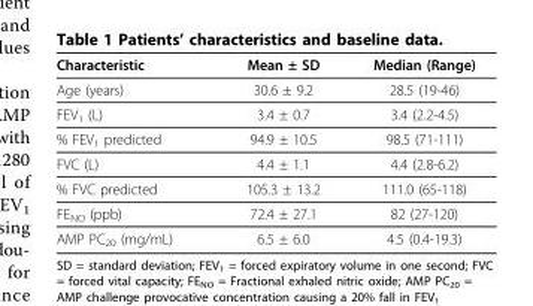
<table><thead><tr><td>Characteristic</td><td>Mean ± SD</td><td>Median (Range)</td></tr></thead><tbody><tr><td>Age (years)</td><td>30.6 ± 9.2</td><td>28.5 (19-46)</td></tr><tr><td>FEV<sub>1</sub> (L)</td><td>3.4 ± 0.7</td><td>3.4 (2.2-4.5)</td></tr><tr><td>% FEV<sub>1</sub> predicted</td><td>94.9 ± 10.5</td><td>98.5 (71-111)</td></tr><tr><td>FVC (L)</td><td>4.4 ± 1.1</td><td>4.4 (2.8-6.2)</td></tr><tr><td>% FVC predicted</td><td>105.3 ± 13.2</td><td>111.0 (65-118)</td></tr><tr><td>FE<sub>NO</sub> (ppb)</td><td>72.4 ± 27.1</td><td>82 (27-120)</td></tr><tr><td>AMP PC<sub>20</sub> (mg/mL)</td><td>6.5 ± 6.0</td><td>4.5 (0.4-19.3)</td></tr></tbody></table>